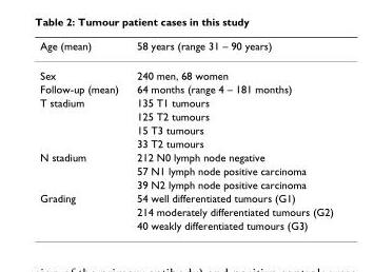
<table><thead><tr><td>Age (mean)</td><td>58 years (range 31 – 90 years)</td></tr></thead><tbody><tr><td>Sex</td><td>240 men, 68 women</td></tr><tr><td>Follow-up (mean)</td><td>64 months (range 4 – 181 months)</td></tr><tr><td rowspan="4">T stadium</td><td>135 T1 tumours</td></tr><tr><td>125 T2 tumours</td></tr><tr><td>15 T3 tumours</td></tr><tr><td>33 T2 tumours</td></tr><tr><td rowspan="3">N stadium</td><td>212 N0 lymph node negative</td></tr><tr><td>57 N1 lymph node positive carcinoma</td></tr><tr><td>39 N2 lymph node positive carcinoma</td></tr><tr><td rowspan="3">Grading</td><td>54 well differentiated tumours (G1)</td></tr><tr><td>214 moderately differentiated tumours (G2)</td></tr><tr><td>40 weakly differentiated tumours (G3)</td></tr></tbody></table>